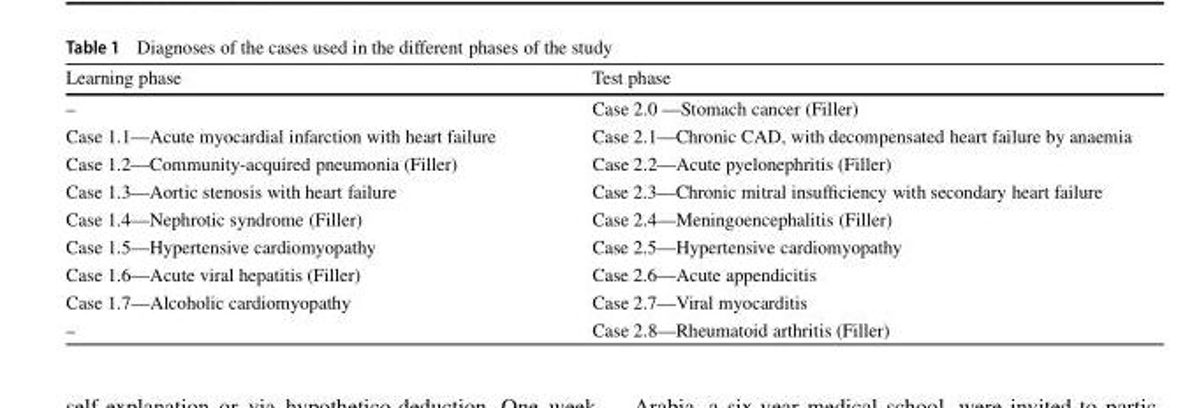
<table><thead><tr><td>Learning phase</td><td>Test phase</td></tr></thead><tbody><tr><td>–</td><td>Case 2.0 —Stomach cancer (Filler)</td></tr><tr><td>Case 1.1—Acute myocardial infarction with heart failure</td><td>Case 2.1—Chronic CAD, with decompensated heart failure by anaemia</td></tr><tr><td>Case 1.2—Community-acquired pneumonia (Filler)</td><td>Case 2.2—Acute pyelonephritis (Filler)</td></tr><tr><td>Case 1.3—Aortic stenosis with heart failure</td><td>Case 2.3—Chronic mitral insufficiency with secondary heart failure</td></tr><tr><td>Case 1.4—Nephrotic syndrome (Filler)</td><td>Case 2.4—Meningoencephalitis (Filler)</td></tr><tr><td>Case 1.5—Hypertensive cardiomyopathy</td><td>Case 2.5—Hypertensive cardiomyopathy</td></tr><tr><td>Case 1.6—Acute viral hepatitis (Filler)</td><td>Case 2.6—Acute appendicitis</td></tr><tr><td>Case 1.7—Alcoholic cardiomyopathy</td><td>Case 2.7—Viral myocarditis</td></tr><tr><td>–</td><td>Case 2.8—Rheumatoid arthritis (Filler)</td></tr></tbody></table>